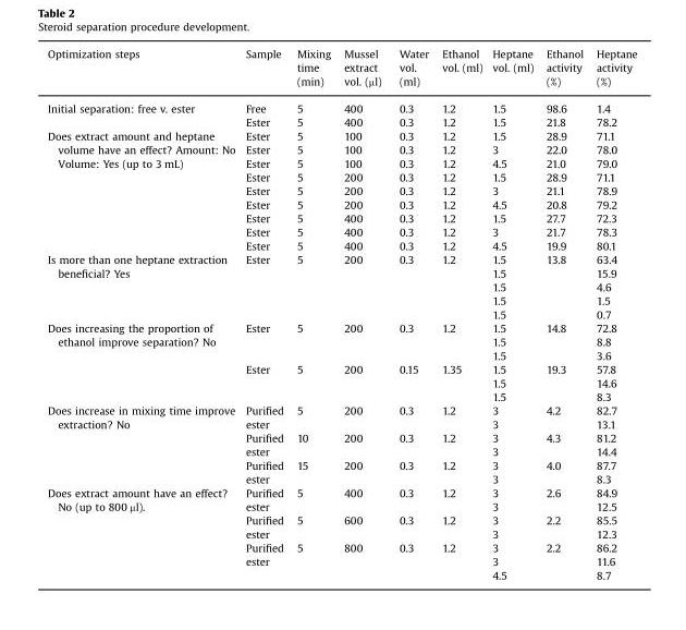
<table><thead><tr><td>Optimization steps</td><td>Sample</td><td>Mixing time (min)</td><td>Mussel extract vol. (µl)</td><td>Water vol. (ml)</td><td>Ethanol vol. (ml)</td><td>Heptane vol. (ml)</td><td>Ethanol activity (%)</td><td>Heptane activity (%)</td></tr></thead><tbody><tr><td rowspan="2">Initial separation: free v. ester</td><td>Free</td><td>5</td><td>400</td><td>0.3</td><td>1.2</td><td>1.5</td><td>98.6</td><td>1.4</td></tr><tr><td>Ester</td><td>5</td><td>400</td><td>0.3</td><td>1.2</td><td>1.5</td><td>21.8</td><td>78.2</td></tr><tr><td rowspan="9">Does extract amount and heptane volume have an effect? Amount: No Volume: Yes (up to 3 mL)</td><td>Ester</td><td>5</td><td>100</td><td>0.3</td><td>1.2</td><td>1.5</td><td>28.9</td><td>71.1</td></tr><tr><td>Ester</td><td>5</td><td>100</td><td>0.3</td><td>1.2</td><td>3</td><td>22.0</td><td>78.0</td></tr><tr><td>Ester</td><td>5</td><td>100</td><td>0.3</td><td>1.2</td><td>4.5</td><td>21.0</td><td>79.0</td></tr><tr><td>Ester</td><td>5</td><td>200</td><td>0.3</td><td>1.2</td><td>1.5</td><td>28.9</td><td>71.1</td></tr><tr><td>Ester</td><td>5</td><td>200</td><td>0.3</td><td>1.2</td><td>3</td><td>21.1</td><td>78.9</td></tr><tr><td>Ester</td><td>5</td><td>200</td><td>0.3</td><td>1.2</td><td>4.5</td><td>20.8</td><td>79.2</td></tr><tr><td>Ester</td><td>5</td><td>400</td><td>0.3</td><td>1.2</td><td>1.5</td><td>27.7</td><td>72.3</td></tr><tr><td>Ester</td><td>5</td><td>400</td><td>0.3</td><td>1.2</td><td>3</td><td>21.7</td><td>78.3</td></tr><tr><td>Ester</td><td>5</td><td>400</td><td>0.3</td><td>1.2</td><td>4.5</td><td>19.9</td><td>80.1</td></tr><tr><td rowspan="5">Is more than one heptane extraction beneficial? Yes</td><td rowspan="5">Ester</td><td rowspan="5">5</td><td rowspan="5">200</td><td rowspan="5">0.3</td><td rowspan="5">1.2</td><td>1.5</td><td>13.8</td><td>63.4</td></tr><tr><td>1.5</td><td></td><td>15.9</td></tr><tr><td>1.5</td><td></td><td>4.6</td></tr><tr><td>1.5</td><td></td><td>1.5</td></tr><tr><td>1.5</td><td></td><td>0.7</td></tr><tr><td rowspan="6">Does increasing the proportion of ethanol improve separation? No</td><td rowspan="3">Ester</td><td rowspan="3">5</td><td rowspan="3">200</td><td rowspan="3">0.3</td><td rowspan="3">1.2</td><td>1.5</td><td>14.8</td><td>72.8</td></tr><tr><td>1.5</td><td></td><td>8.8</td></tr><tr><td>1.5</td><td></td><td>3.6</td></tr><tr><td rowspan="3">Ester</td><td rowspan="3">5</td><td rowspan="3">200</td><td rowspan="3">0.15</td><td rowspan="3">1.35</td><td>1.5</td><td>19.3</td><td>57.8</td></tr><tr><td>1.5</td><td></td><td>14.6</td></tr><tr><td>1.5</td><td></td><td>8.3</td></tr><tr><td rowspan="6">Does increase in mixing time improve extraction? No</td><td rowspan="2">Purified ester</td><td rowspan="2">5</td><td rowspan="2">200</td><td rowspan="2">0.3</td><td rowspan="2">1.2</td><td>3</td><td>4.2</td><td>82.7</td></tr><tr><td>3</td><td></td><td>13.1</td></tr><tr><td rowspan="2">Purified ester</td><td rowspan="2">10</td><td rowspan="2">200</td><td rowspan="2">0.3</td><td rowspan="2">1.2</td><td>3</td><td>4.3</td><td>81.2</td></tr><tr><td>3</td><td></td><td>14.4</td></tr><tr><td rowspan="2">Purified ester</td><td rowspan="2">15</td><td rowspan="2">200</td><td rowspan="2">0.3</td><td rowspan="2">1.2</td><td>3</td><td>4.0</td><td>87.7</td></tr><tr><td>3</td><td></td><td>8.3</td></tr><tr><td rowspan="7">Does extract amount have an effect? No (up to 800 µl).</td><td rowspan="2">Purified ester</td><td rowspan="2">5</td><td rowspan="2">400</td><td rowspan="2">0.3</td><td rowspan="2">1.2</td><td>3</td><td>2.6</td><td>84.9</td></tr><tr><td>3</td><td></td><td>12.5</td></tr><tr><td rowspan="2">Purified ester</td><td rowspan="2">5</td><td rowspan="2">600</td><td rowspan="2">0.3</td><td rowspan="2">1.2</td><td>3</td><td>2.2</td><td>85.5</td></tr><tr><td>3</td><td></td><td>12.3</td></tr><tr><td rowspan="3">Purified ester</td><td rowspan="3">5</td><td rowspan="3">800</td><td rowspan="3">0.3</td><td rowspan="3">1.2</td><td>3</td><td>2.2</td><td>86.2</td></tr><tr><td>3</td><td></td><td>11.6</td></tr><tr><td>4.5</td><td></td><td>8.7</td></tr></tbody></table>